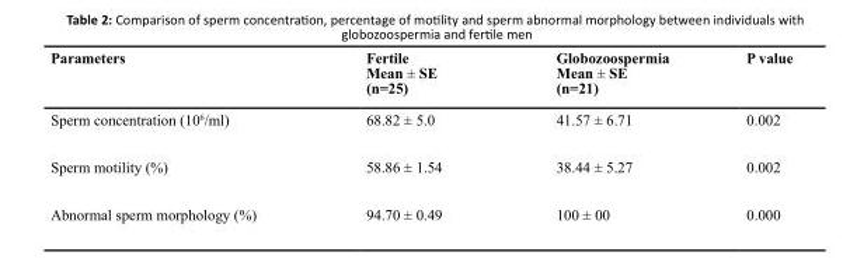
<table><thead><tr><td>Parameters</td><td>Fertile Mean ± SE (n=25)</td><td>Globozoospermia Mean ± SE (n=21)</td><td>P value</td></tr></thead><tbody><tr><td>Sperm concentration (106/ml)</td><td>68.82 ± 5.0</td><td>41.57 ± 6.71</td><td>0.002</td></tr><tr><td>Sperm motility (%)</td><td>58.86 ± 1.54</td><td>38.44 ± 5.27</td><td>0.002</td></tr><tr><td>Abnormal sperm morphology (%)</td><td>94.70 ± 0.49</td><td>100 ± 00</td><td>0.000</td></tr></tbody></table>